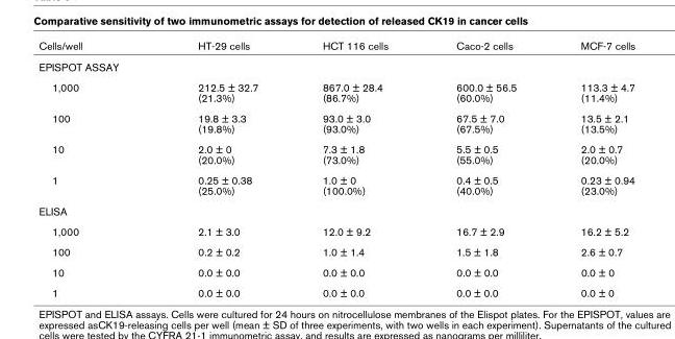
<table><thead><tr><td>Cells/well</td><td>HT-29 cells</td><td>HCT 116 cells</td><td>Caco-2 cells</td><td>MCF-7 cells</td></tr></thead><tbody><tr><td colspan="5">EPISPOT ASSAY</td></tr><tr><td>1,000</td><td>212.5 ± 32.7 (21.3%)</td><td>867.0 ± 28.4 (86.7%)</td><td>600.0 ± 56.5 (60.0%)</td><td>113.3 ± 4.7 (11.4%)</td></tr><tr><td>100</td><td>19.8 ± 3.3 (19.8%)</td><td>93.0 ± 3.0 (93.0%)</td><td>67.5 ± 7.0 (67.5%)</td><td>13.5 ± 2.1 (13.5%)</td></tr><tr><td>10</td><td>2.0 ± 0 (20.0%)</td><td>7.3 ± 1.8 (73.0%)</td><td>5.5 ± 0.5 (55.0%)</td><td>2.0 ± 0.7 (20.0%)</td></tr><tr><td>1</td><td>0.25 ± 0.38 (25.0%)</td><td>1.0 ± 0 (100.0%)</td><td>0.4 ± 0.5 (40.0%)</td><td>0.23 ± 0.94 (23.0%)</td></tr><tr><td colspan="5">ELISA</td></tr><tr><td>1,000</td><td>2.1 ± 3.0</td><td>12.0 ± 9.2</td><td>16.7 ± 2.9</td><td>16.2 ± 5.2</td></tr><tr><td>100</td><td>0.2 ± 0.2</td><td>1.0 ± 1.4</td><td>1.5 ± 1.8</td><td>2.6 ± 0.7</td></tr><tr><td>10</td><td>0.0 ± 0.0</td><td>0.0 ± 0.0</td><td>0.0 ± 0.0</td><td>0.0 ± 0</td></tr><tr><td>1</td><td>0.0 ± 0.0</td><td>0.0 ± 0.0</td><td>0.0 ± 0.0</td><td>0.0 ± 0</td></tr></tbody></table>